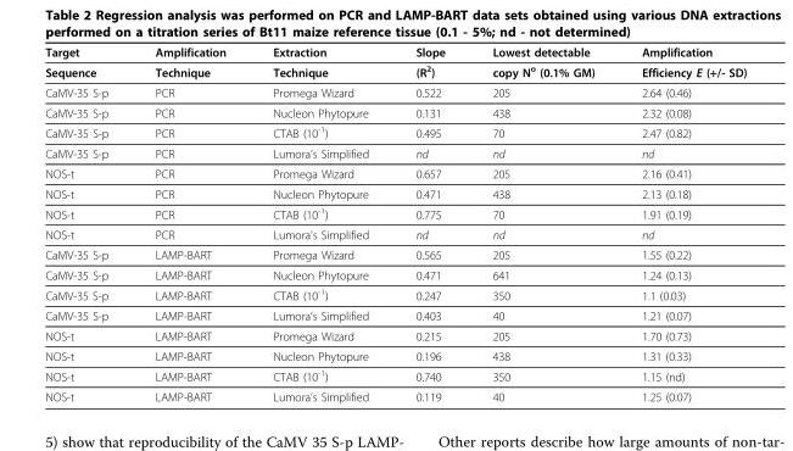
<table><thead><tr><td>Target</td><td>Amplification</td><td>Extraction</td><td>Slope</td><td>Lowest detectable</td><td>Amplification</td></tr></thead><tbody><tr><td>Sequence</td><td>Technique</td><td>Technique</td><td>(R<sup>2</sup>)</td><td>copy N<sup>o</sup> (0.1% GM)</td><td>Efficiency E (+/- SD)</td></tr><tr><td>CaMV-35 S-p</td><td>PCR</td><td>Promega Wizard</td><td>0.522</td><td>205</td><td>2.64 (0.46)</td></tr><tr><td>CaMV-35 S-p</td><td>PCR</td><td>Nucleon Phytopure</td><td>0.131</td><td>438</td><td>2.32 (0.08)</td></tr><tr><td>CaMV-35 S-p</td><td>PCR</td><td>CTAB (10<sup>-1</sup>)</td><td>0.495</td><td>70</td><td>2.47 (0.82)</td></tr><tr><td>CaMV-35 S-p</td><td>PCR</td><td>Lumora’s Simplified</td><td>nd</td><td>nd</td><td>nd</td></tr><tr><td>NOS-t</td><td>PCR</td><td>Promega Wizard</td><td>0.657</td><td>205</td><td>2.16 (0.41)</td></tr><tr><td>NOS-t</td><td>PCR</td><td>Nucleon Phytopure</td><td>0.471</td><td>438</td><td>2.13 (0.18)</td></tr><tr><td>NOS-t</td><td>PCR</td><td>CTAB (10<sup>-1</sup>)</td><td>0.775</td><td>70</td><td>1.91 (0.19)</td></tr><tr><td>NOS-t</td><td>PCR</td><td>Lumora’s Simplified</td><td>nd</td><td>nd</td><td>nd</td></tr><tr><td>CaMV-35 S-p</td><td>LAMP-BART</td><td>Promega Wizard</td><td>0.565</td><td>205</td><td>1.55 (0.22)</td></tr><tr><td>CaMV-35 S-p</td><td>LAMP-BART</td><td>Nucleon Phytopure</td><td>0.471</td><td>641</td><td>1.24 (0.13)</td></tr><tr><td>CaMV-35 S-p</td><td>LAMP-BART</td><td>CTAB (10<sup>-1</sup>)</td><td>0.247</td><td>350</td><td>1.1 (0.03)</td></tr><tr><td>CaMV-35 S-p</td><td>LAMP-BART</td><td>Lumora’s Simplified</td><td>0.403</td><td>40</td><td>1.21 (0.07)</td></tr><tr><td>NOS-t</td><td>LAMP-BART</td><td>Promega Wizard</td><td>0.215</td><td>205</td><td>1.70 (0.73)</td></tr><tr><td>NOS-t</td><td>LAMP-BART</td><td>Nucleon Phytopure</td><td>0.196</td><td>438</td><td>1.31 (0.33)</td></tr><tr><td>NOS-t</td><td>LAMP-BART</td><td>CTAB (10<sup>-1</sup>)</td><td>0.740</td><td>350</td><td>1.15 (nd)</td></tr><tr><td>NOS-t</td><td>LAMP-BART</td><td>Lumora’s Simplified</td><td>0.119</td><td>40</td><td>1.25 (0.07)</td></tr></tbody></table>